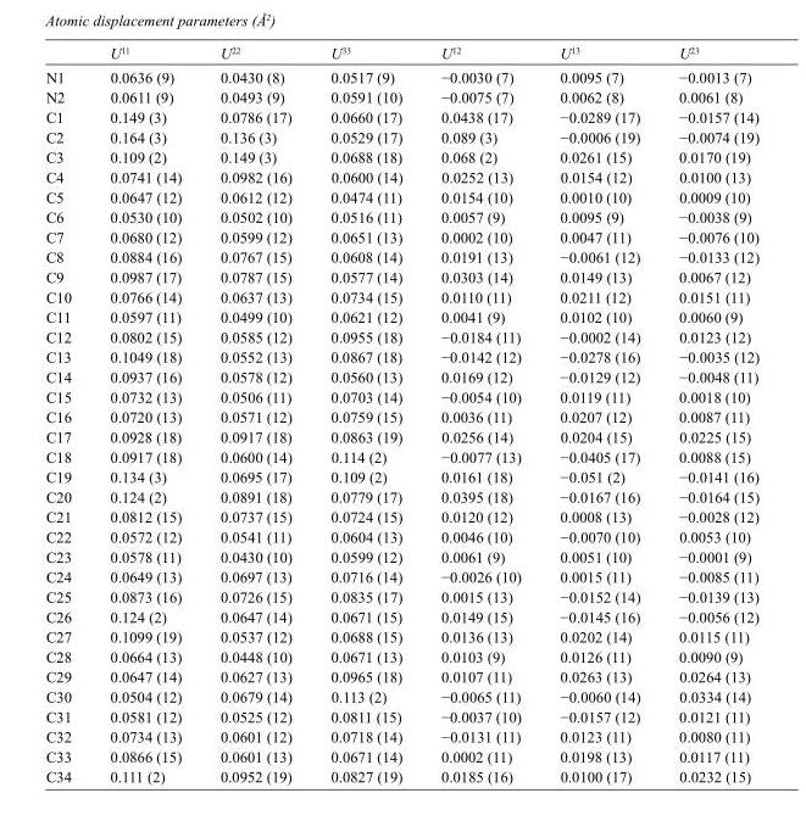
<table><thead><tr><td></td><td>U<sup>11</sup></td><td>U<sup>22</sup></td><td>U<sup>33</sup></td><td>U<sup>12</sup></td><td>U<sup>13</sup></td><td>U<sup>23</sup></td></tr></thead><tbody><tr><td>N1</td><td>0.0636 (9)</td><td>0.0430 (8)</td><td>0.0517 (9)</td><td>−0.0030 (7)</td><td>0.0095 (7)</td><td>−0.0013 (7)</td></tr><tr><td>N2</td><td>0.0611 (9)</td><td>0.0493 (9)</td><td>0.0591 (10)</td><td>−0.0075 (7)</td><td>0.0062 (8)</td><td>0.0061 (8)</td></tr><tr><td>C1</td><td>0.149 (3)</td><td>0.0786 (17)</td><td>0.0660 (17)</td><td>0.0438 (17)</td><td>−0.0289 (17)</td><td>−0.0157 (14)</td></tr><tr><td>C2</td><td>0.164 (3)</td><td>0.136 (3)</td><td>0.0529 (17)</td><td>0.089 (3)</td><td>−0.0006 (19)</td><td>−0.0074 (19)</td></tr><tr><td>C3</td><td>0.109 (2)</td><td>0.149 (3)</td><td>0.0688 (18)</td><td>0.068 (2)</td><td>0.0261 (15)</td><td>0.0170 (19)</td></tr><tr><td>C4</td><td>0.0741 (14)</td><td>0.0982 (16)</td><td>0.0600 (14)</td><td>0.0252 (13)</td><td>0.0154 (12)</td><td>0.0100 (13)</td></tr><tr><td>C5</td><td>0.0647 (12)</td><td>0.0612 (12)</td><td>0.0474 (11)</td><td>0.0154 (10)</td><td>0.0010 (10)</td><td>0.0009 (10)</td></tr><tr><td>C6</td><td>0.0530 (10)</td><td>0.0502 (10)</td><td>0.0516 (11)</td><td>0.0057 (9)</td><td>0.0095 (9)</td><td>−0.0038 (9)</td></tr><tr><td>C7</td><td>0.0680 (12)</td><td>0.0599 (12)</td><td>0.0651 (13)</td><td>0.0002 (10)</td><td>0.0047 (11)</td><td>−0.0076 (10)</td></tr><tr><td>C8</td><td>0.0884 (16)</td><td>0.0767 (15)</td><td>0.0608 (14)</td><td>0.0191 (13)</td><td>−0.0061 (12)</td><td>−0.0133 (12)</td></tr><tr><td>C9</td><td>0.0987 (17)</td><td>0.0787 (15)</td><td>0.0577 (14)</td><td>0.0303 (14)</td><td>0.0149 (13)</td><td>0.0067 (12)</td></tr><tr><td>C10</td><td>0.0766 (14)</td><td>0.0637 (13)</td><td>0.0734 (15)</td><td>0.0110 (11)</td><td>0.0211 (12)</td><td>0.0151 (11)</td></tr><tr><td>C11</td><td>0.0597 (11)</td><td>0.0499 (10)</td><td>0.0621 (12)</td><td>0.0041 (9)</td><td>0.0102 (10)</td><td>0.0060 (9)</td></tr><tr><td>C12</td><td>0.0802 (15)</td><td>0.0585 (12)</td><td>0.0955 (18)</td><td>−0.0184 (11)</td><td>−0.0002 (14)</td><td>0.0123 (12)</td></tr><tr><td>C13</td><td>0.1049 (18)</td><td>0.0552 (13)</td><td>0.0867 (18)</td><td>−0.0142 (12)</td><td>−0.0278 (16)</td><td>−0.0035 (12)</td></tr><tr><td>C14</td><td>0.0937 (16)</td><td>0.0578 (12)</td><td>0.0560 (13)</td><td>0.0169 (12)</td><td>−0.0129 (12)</td><td>−0.0048 (11)</td></tr><tr><td>C15</td><td>0.0732 (13)</td><td>0.0506 (11)</td><td>0.0703 (14)</td><td>−0.0054 (10)</td><td>0.0119 (11)</td><td>0.0018 (10)</td></tr><tr><td>C16</td><td>0.0720 (13)</td><td>0.0571 (12)</td><td>0.0759 (15)</td><td>0.0036 (11)</td><td>0.0207 (12)</td><td>0.0087 (11)</td></tr><tr><td>C17</td><td>0.0928 (18)</td><td>0.0917 (18)</td><td>0.0863 (19)</td><td>0.0256 (14)</td><td>0.0204 (15)</td><td>0.0225 (15)</td></tr><tr><td>C18</td><td>0.0917 (18)</td><td>0.0600 (14)</td><td>0.114 (2)</td><td>−0.0077 (13)</td><td>−0.0405 (17)</td><td>0.0088 (15)</td></tr><tr><td>C19</td><td>0.134 (3)</td><td>0.0695 (17)</td><td>0.109 (2)</td><td>0.0161 (18)</td><td>−0.051 (2)</td><td>−0.0141 (16)</td></tr><tr><td>C20</td><td>0.124 (2)</td><td>0.0891 (18)</td><td>0.0779 (17)</td><td>0.0395 (18)</td><td>−0.0167 (16)</td><td>−0.0164 (15)</td></tr><tr><td>C21</td><td>0.0812 (15)</td><td>0.0737 (15)</td><td>0.0724 (15)</td><td>0.0120 (12)</td><td>0.0008 (13)</td><td>−0.0028 (12)</td></tr><tr><td>C22</td><td>0.0572 (12)</td><td>0.0541 (11)</td><td>0.0604 (13)</td><td>0.0046 (10)</td><td>−0.0070 (10)</td><td>0.0053 (10)</td></tr><tr><td>C23</td><td>0.0578 (11)</td><td>0.0430 (10)</td><td>0.0599 (12)</td><td>0.0061 (9)</td><td>0.0051 (10)</td><td>−0.0001 (9)</td></tr><tr><td>C24</td><td>0.0649 (13)</td><td>0.0697 (13)</td><td>0.0716 (14)</td><td>−0.0026 (10)</td><td>0.0015 (11)</td><td>−0.0085 (11)</td></tr><tr><td>C25</td><td>0.0873 (16)</td><td>0.0726 (15)</td><td>0.0835 (17)</td><td>0.0015 (13)</td><td>−0.0152 (14)</td><td>−0.0139 (13)</td></tr><tr><td>C26</td><td>0.124 (2)</td><td>0.0647 (14)</td><td>0.0671 (15)</td><td>0.0149 (15)</td><td>−0.0145 (16)</td><td>−0.0056 (12)</td></tr><tr><td>C27</td><td>0.1099 (19)</td><td>0.0537 (12)</td><td>0.0688 (15)</td><td>0.0136 (13)</td><td>0.0202 (14)</td><td>0.0115 (11)</td></tr><tr><td>C28</td><td>0.0664 (13)</td><td>0.0448 (10)</td><td>0.0671 (13)</td><td>0.0103 (9)</td><td>0.0126 (11)</td><td>0.0090 (9)</td></tr><tr><td>C29</td><td>0.0647 (14)</td><td>0.0627 (13)</td><td>0.0965 (18)</td><td>0.0107 (11)</td><td>0.0263 (13)</td><td>0.0264 (13)</td></tr><tr><td>C30</td><td>0.0504 (12)</td><td>0.0679 (14)</td><td>0.113 (2)</td><td>−0.0065 (11)</td><td>−0.0060 (14)</td><td>0.0334 (14)</td></tr><tr><td>C31</td><td>0.0581 (12)</td><td>0.0525 (12)</td><td>0.0811 (15)</td><td>−0.0037 (10)</td><td>−0.0157 (12)</td><td>0.0121 (11)</td></tr><tr><td>C32</td><td>0.0734 (13)</td><td>0.0601 (12)</td><td>0.0718 (14)</td><td>−0.0131 (11)</td><td>0.0123 (11)</td><td>0.0080 (11)</td></tr><tr><td>C33</td><td>0.0866 (15)</td><td>0.0601 (13)</td><td>0.0671 (14)</td><td>0.0002 (11)</td><td>0.0198 (13)</td><td>0.0117 (11)</td></tr><tr><td>C34</td><td>0.111 (2)</td><td>0.0952 (19)</td><td>0.0827 (19)</td><td>0.0185 (16)</td><td>0.0100 (17)</td><td>0.0232 (15)</td></tr></tbody></table>